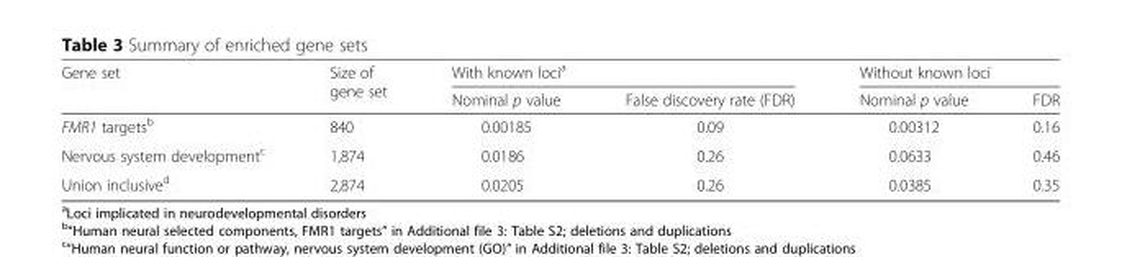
<table><thead><tr><td rowspan="2">Gene set</td><td rowspan="2">Size of gene set</td><td colspan="2">With known loci<sup>a</sup></td><td colspan="2">Without known loci</td></tr><tr><td>Nominal p value</td><td>False discovery rate (FDR)</td><td>Nominal p value</td><td>FDR</td></tr></thead><tbody><tr><td>FMR1 targets<sup>b</sup></td><td>840</td><td>0.00185</td><td>0.09</td><td>0.00312</td><td>0.16</td></tr><tr><td>Nervous system development<sup>c</sup></td><td>1,874</td><td>0.0186</td><td>0.26</td><td>0.0633</td><td>0.46</td></tr><tr><td>Union inclusive<sup>d</sup></td><td>2,874</td><td>0.0205</td><td>0.26</td><td>0.0385</td><td>0.35</td></tr></tbody></table>